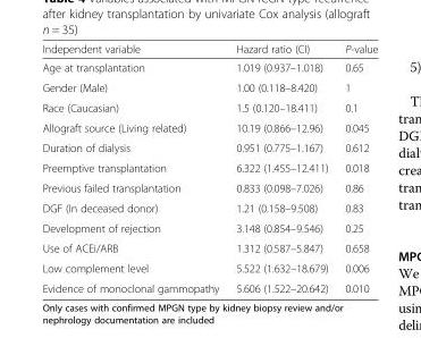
<table><thead><tr><td>Independent variable</td><td>Hazard ratio (CI)</td><td>P-value</td></tr></thead><tbody><tr><td>Age at transplantation</td><td>1.019 (0.937–1.018)</td><td>0.65</td></tr><tr><td>Gender (Male)</td><td>1.00 (0.118–8.420)</td><td>1</td></tr><tr><td>Race (Caucasian)</td><td>1.5 (0.120–18.411)</td><td>0.1</td></tr><tr><td>Allograft source (Living related)</td><td>10.19 (0.866–12.96)</td><td>0.045</td></tr><tr><td>Duration of dialysis</td><td>0.951 (0.775–1.167)</td><td>0.612</td></tr><tr><td>Preemptive transplantation</td><td>6.322 (1.455–12.411)</td><td>0.018</td></tr><tr><td>Previous failed transplantation</td><td>0.833 (0.098–7.026)</td><td>0.86</td></tr><tr><td>DGF (In deceased donor)</td><td>1.21 (0.158–9.508)</td><td>0.83</td></tr><tr><td>Development of rejection</td><td>3.148 (0.854–9.546)</td><td>0.25</td></tr><tr><td>Use of ACEi/ARB</td><td>1.312 (0.587–5.847)</td><td>0.658</td></tr><tr><td>Low complement level</td><td>5.522 (1.632–18.679)</td><td>0.006</td></tr><tr><td>Evidence of monoclonal gammopathy</td><td>5.606 (1.522–20.642)</td><td>0.010</td></tr></tbody></table>